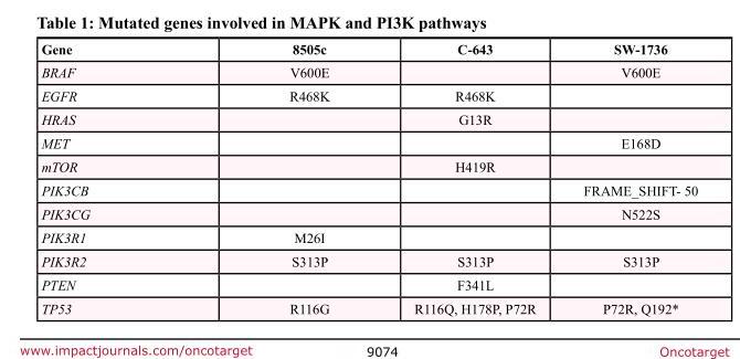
<table><thead><tr><td>Gene</td><td>8505c</td><td>C-643</td><td>SW-1736</td></tr></thead><tbody><tr><td>BRAF</td><td>V600E</td><td></td><td>V600E</td></tr><tr><td>EGFR</td><td>R468K</td><td>R468K</td><td></td></tr><tr><td>HRAS</td><td></td><td>G13R</td><td></td></tr><tr><td>MET</td><td></td><td></td><td>E168D</td></tr><tr><td>mTOR</td><td></td><td>H419R</td><td></td></tr><tr><td>PIK3CB</td><td></td><td></td><td>FRAME_SHIFT- 50</td></tr><tr><td>PIK3CG</td><td></td><td></td><td>N522S</td></tr><tr><td>PIK3R1</td><td>M26I</td><td></td><td></td></tr><tr><td>PIK3R2</td><td>S313P</td><td>S313P</td><td>S313P</td></tr><tr><td>PTEN</td><td></td><td>F341L</td><td></td></tr><tr><td>TP53</td><td>R116G</td><td>R116Q, H178P, P72R</td><td>P72R, Q192*</td></tr></tbody></table>